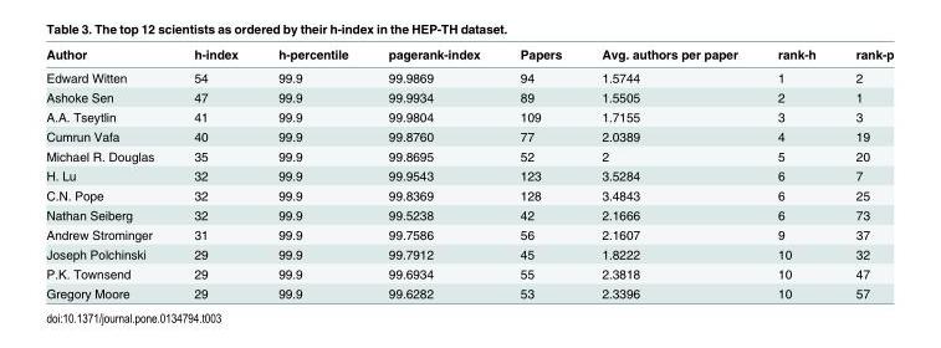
<table><thead><tr><td>Author</td><td>h-index</td><td>h-percentile</td><td>pagerank-index</td><td>Papers</td><td>Avg. authors per paper</td><td>rank-h</td><td>rank-p</td></tr></thead><tbody><tr><td>Edward Witten</td><td>54</td><td>99.9</td><td>99.9869</td><td>94</td><td>1.5744</td><td>1</td><td>2</td></tr><tr><td>Ashoke Sen</td><td>47</td><td>99.9</td><td>99.9934</td><td>89</td><td>1.5505</td><td>2</td><td>1</td></tr><tr><td>A.A. Tseytlin</td><td>41</td><td>99.9</td><td>99.9804</td><td>109</td><td>1.7155</td><td>3</td><td>3</td></tr><tr><td>Cumrun Vafa</td><td>40</td><td>99.9</td><td>99.8760</td><td>77</td><td>2.0389</td><td>4</td><td>19</td></tr><tr><td>Michael R. Douglas</td><td>35</td><td>99.9</td><td>99.8695</td><td>52</td><td>2</td><td>5</td><td>20</td></tr><tr><td>H. Lu</td><td>32</td><td>99.9</td><td>99.9543</td><td>123</td><td>3.5284</td><td>6</td><td>7</td></tr><tr><td>C.N. Pope</td><td>32</td><td>99.9</td><td>99.8369</td><td>128</td><td>3.4843</td><td>6</td><td>25</td></tr><tr><td>Nathan Seiberg</td><td>32</td><td>99.9</td><td>99.5238</td><td>42</td><td>2.1666</td><td>6</td><td>73</td></tr><tr><td>Andrew Strominger</td><td>31</td><td>99.9</td><td>99.7586</td><td>56</td><td>2.1607</td><td>9</td><td>37</td></tr><tr><td>Joseph Polchinski</td><td>29</td><td>99.9</td><td>99.7912</td><td>45</td><td>1.8222</td><td>10</td><td>32</td></tr><tr><td>P.K. Townsend</td><td>29</td><td>99.9</td><td>99.6934</td><td>55</td><td>2.3818</td><td>10</td><td>47</td></tr><tr><td>Gregory Moore</td><td>29</td><td>99.9</td><td>99.6282</td><td>53</td><td>2.3396</td><td>10</td><td>57</td></tr></tbody></table>